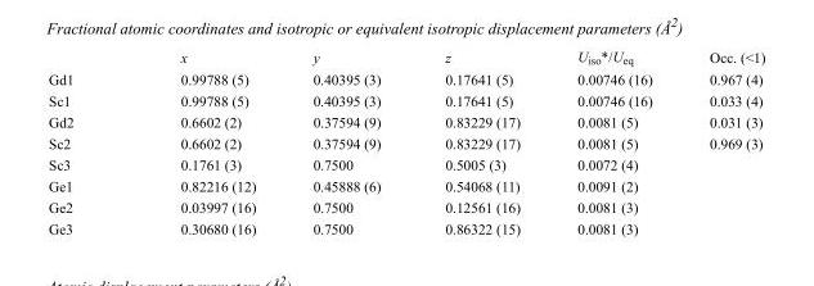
<table><thead><tr><td></td><td>x</td><td>y</td><td>z</td><td>U<sub>iso</sub>*/U<sub>eq</sub></td><td>Occ. (&lt;1)</td></tr></thead><tbody><tr><td>Gd1</td><td>0.99788 (5)</td><td>0.40395 (3)</td><td>0.17641 (5)</td><td>0.00746 (16)</td><td>0.967 (4)</td></tr><tr><td>Sc1</td><td>0.99788 (5)</td><td>0.40395 (3)</td><td>0.17641 (5)</td><td>0.00746 (16)</td><td>0.033 (4)</td></tr><tr><td>Gd2</td><td>0.6602 (2)</td><td>0.37594 (9)</td><td>0.83229 (17)</td><td>0.0081 (5)</td><td>0.031 (3)</td></tr><tr><td>Sc2</td><td>0.6602 (2)</td><td>0.37594 (9)</td><td>0.83229 (17)</td><td>0.0081 (5)</td><td>0.969 (3)</td></tr><tr><td>Sc3</td><td>0.1761 (3)</td><td>0.7500</td><td>0.5005 (3)</td><td>0.0072 (4)</td><td></td></tr><tr><td>Ge1</td><td>0.82216 (12)</td><td>0.45888 (6)</td><td>0.54068 (11)</td><td>0.0091 (2)</td><td></td></tr><tr><td>Ge2</td><td>0.03997 (16)</td><td>0.7500</td><td>0.12561 (16)</td><td>0.0081 (3)</td><td></td></tr><tr><td>Ge3</td><td>0.30680 (16)</td><td>0.7500</td><td>0.86322 (15)</td><td>0.0081 (3)</td><td></td></tr></tbody></table>